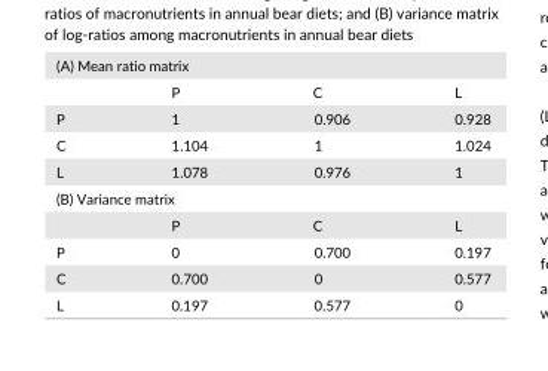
<table><tbody><tr><td colspan="4">(A) Mean ratio matrix</td></tr><tr><td></td><td>P</td><td>C</td><td>L</td></tr><tr><td>P</td><td>1</td><td>0.906</td><td>0.928</td></tr><tr><td>C</td><td>1.104</td><td>1</td><td>1.024</td></tr><tr><td>L</td><td>1.078</td><td>0.976</td><td>1</td></tr><tr><td colspan="4">(B) Variance matrix</td></tr><tr><td></td><td>P</td><td>C</td><td>L</td></tr><tr><td>P</td><td>0</td><td>0.700</td><td>0.197</td></tr><tr><td>C</td><td>0.700</td><td>0</td><td>0.577</td></tr><tr><td>L</td><td>0.197</td><td>0.577</td><td>0</td></tr></tbody></table>